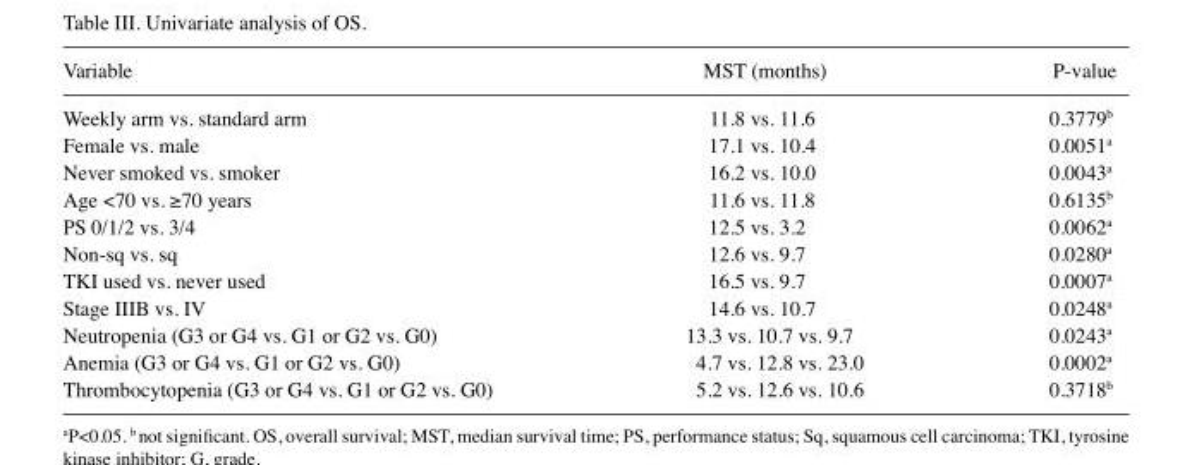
<table><thead><tr><td>Variable</td><td>MST (months)</td><td>P-value</td></tr></thead><tbody><tr><td>Weekly arm vs. standard arm</td><td>11.8 vs. 11.6</td><td>0.3779<sup>b</sup></td></tr><tr><td>Female vs. male</td><td>17.1 vs. 10.4</td><td>0.0051<sup>a</sup></td></tr><tr><td>Never smoked vs. smoker</td><td>16.2 vs. 10.0</td><td>0.0043<sup>a</sup></td></tr><tr><td>Age &lt;70 vs. ≥70 years</td><td>11.6 vs. 11.8</td><td>0.6135<sup>b</sup></td></tr><tr><td>PS 0/1/2 vs. 3/4</td><td>12.5 vs. 3.2</td><td>0.0062<sup>a</sup></td></tr><tr><td>Non-sq vs. sq</td><td>12.6 vs. 9.7</td><td>0.0280<sup>a</sup></td></tr><tr><td>TKI used vs. never used</td><td>16.5 vs. 9.7</td><td>0.0007<sup>a</sup></td></tr><tr><td>Stage IIIB vs. IV</td><td>14.6 vs. 10.7</td><td>0.0248<sup>a</sup></td></tr><tr><td>Neutropenia (G3 or G4 vs. G1 or G2 vs. G0)</td><td>13.3 vs. 10.7 vs. 9.7</td><td>0.0243<sup>a</sup></td></tr><tr><td>Anemia (G3 or G4 vs. G1 or G2 vs. G0)</td><td>4.7 vs. 12.8 vs. 23.0</td><td>0.0002<sup>a</sup></td></tr><tr><td>Thrombocytopenia (G3 or G4 vs. G1 or G2 vs. G0)</td><td>5.2 vs. 12.6 vs. 10.6</td><td>0.3718<sup>b</sup></td></tr></tbody></table>